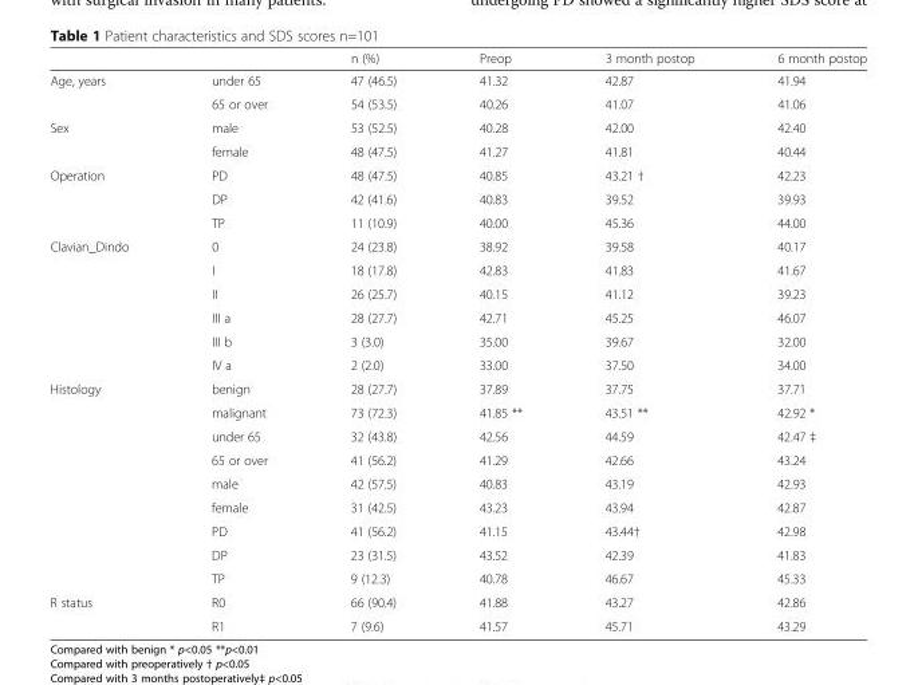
<table><thead><tr><td></td><td></td><td>n (%)</td><td>Preop</td><td>3 month postop</td><td>6 month postop</td></tr></thead><tbody><tr><td rowspan="2">Age, years</td><td>under 65</td><td>47 (46.5)</td><td>41.32</td><td>42.87</td><td>41.94</td></tr><tr><td>65 or over</td><td>54 (53.5)</td><td>40.26</td><td>41.07</td><td>41.06</td></tr><tr><td rowspan="2">Sex</td><td>male</td><td>53 (52.5)</td><td>40.28</td><td>42.00</td><td>42.40</td></tr><tr><td>female</td><td>48 (47.5)</td><td>41.27</td><td>41.81</td><td>40.44</td></tr><tr><td rowspan="3">Operation</td><td>PD</td><td>48 (47.5)</td><td>40.85</td><td>43.21 †</td><td>42.23</td></tr><tr><td>DP</td><td>42 (41.6)</td><td>40.83</td><td>39.52</td><td>39.93</td></tr><tr><td>TP</td><td>11 (10.9)</td><td>40.00</td><td>45.36</td><td>44.00</td></tr><tr><td rowspan="6">Clavian_Dindo</td><td>0</td><td>24 (23.8)</td><td>38.92</td><td>39.58</td><td>40.17</td></tr><tr><td>I</td><td>18 (17.8)</td><td>42.83</td><td>41.83</td><td>41.67</td></tr><tr><td>II</td><td>26 (25.7)</td><td>40.15</td><td>41.12</td><td>39.23</td></tr><tr><td>III a</td><td>28 (27.7)</td><td>42.71</td><td>45.25</td><td>46.07</td></tr><tr><td>III b</td><td>3 (3.0)</td><td>35.00</td><td>39.67</td><td>32.00</td></tr><tr><td>IV a</td><td>2 (2.0)</td><td>33.00</td><td>37.50</td><td>34.00</td></tr><tr><td rowspan="9">Histology</td><td>benign</td><td>28 (27.7)</td><td>37.89</td><td>37.75</td><td>37.71</td></tr><tr><td>malignant</td><td>73 (72.3)</td><td>41.85 **</td><td>43.51 **</td><td>42.92 *</td></tr><tr><td>under 65</td><td>32 (43.8)</td><td>42.56</td><td>44.59</td><td>42.47 ‡</td></tr><tr><td>65 or over</td><td>41 (56.2)</td><td>41.29</td><td>42.66</td><td>43.24</td></tr><tr><td>male</td><td>42 (57.5)</td><td>40.83</td><td>43.19</td><td>42.93</td></tr><tr><td>female</td><td>31 (42.5)</td><td>43.23</td><td>43.94</td><td>42.87</td></tr><tr><td>PD</td><td>41 (56.2)</td><td>41.15</td><td>43.44†</td><td>42.98</td></tr><tr><td>DP</td><td>23 (31.5)</td><td>43.52</td><td>42.39</td><td>41.83</td></tr><tr><td>TP</td><td>9 (12.3)</td><td>40.78</td><td>46.67</td><td>45.33</td></tr><tr><td rowspan="2">R status</td><td>R0</td><td>66 (90.4)</td><td>41.88</td><td>43.27</td><td>42.86</td></tr><tr><td>R1</td><td>7 (9.6)</td><td>41.57</td><td>45.71</td><td>43.29</td></tr></tbody></table>